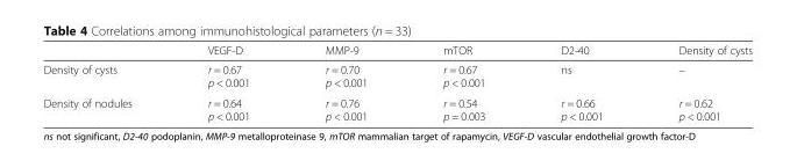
<table><thead><tr><td></td><td>VEGF-D</td><td>MMP-9</td><td>mTOR</td><td>D2-40</td><td>Density of cysts</td></tr></thead><tbody><tr><td>Density of cysts</td><td>r = 0.67 p &lt; 0.001</td><td>r = 0.70 p &lt; 0.001</td><td>r = 0.67 p &lt; 0.001</td><td>ns</td><td>–</td></tr><tr><td>Density of nodules</td><td>r = 0.64 p &lt; 0.001</td><td>r = 0.76 p &lt; 0.001</td><td>r = 0.54 p = 0.003</td><td>r = 0.66 p &lt; 0.001</td><td>r = 0.62 p &lt; 0.001</td></tr></tbody></table>